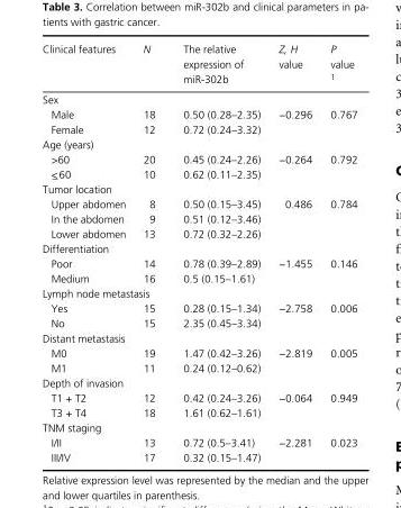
<table><thead><tr><td>Clinical features</td><td>N</td><td>The relative expression of miR- 302b</td><td>Z, H value</td><td>P value 1</td></tr></thead><tbody><tr><td colspan="5">Sex</td></tr><tr><td>Male</td><td>18</td><td>0.50 (0.28–2.35)</td><td rowspan="2">−0.296</td><td rowspan="2">0.767</td></tr><tr><td>Female</td><td>12</td><td>0.72 (0.24–3.32)</td></tr><tr><td colspan="5">Age (years)</td></tr><tr><td>&gt;60</td><td>20</td><td>0.45 (0.24–2.26)</td><td rowspan="2">−0.264</td><td rowspan="2">0.792</td></tr><tr><td>&lt;_60</td><td>10</td><td>0.62 (0.11–2.35)</td></tr><tr><td colspan="5">Tumor location</td></tr><tr><td>Upper abdomen</td><td>8</td><td>0.50 (0.15–3.45)</td><td rowspan="3">0.486</td><td rowspan="3">0.784</td></tr><tr><td>In the abdomen</td><td>9</td><td>0.51 (0.12–3.46)</td></tr><tr><td>Lower abdomen</td><td>13</td><td>0.72 (0.32–2.26)</td></tr><tr><td colspan="5">Differentiation</td></tr><tr><td>Poor</td><td>14</td><td>0.78 (0.39–2.89)</td><td rowspan="2">−1.455</td><td rowspan="2">0.146</td></tr><tr><td>Medium</td><td>16</td><td>0.5 (0.15–1.61)</td></tr><tr><td colspan="5">Lymph node metastasis</td></tr><tr><td>Yes</td><td>15</td><td>0.28 (0.15–1.34)</td><td rowspan="2">−2.758</td><td rowspan="2">0.006</td></tr><tr><td>No</td><td>15</td><td>2.35 (0.45–3.34)</td></tr><tr><td colspan="5">Distant metastasis</td></tr><tr><td>M0</td><td>19</td><td>1.47 (0.42–3.26)</td><td rowspan="2">−2.819</td><td rowspan="2">0.005</td></tr><tr><td>M1</td><td>11</td><td>0.24 (0.12–0.62)</td></tr><tr><td colspan="5">Depth of invasion</td></tr><tr><td>T1 + T2</td><td>12</td><td>0.42 (0.24–3.26)</td><td rowspan="2">−0.064</td><td rowspan="2">0.949</td></tr><tr><td>T3 + T4</td><td>18</td><td>1.61 (0.62–1.61)</td></tr><tr><td colspan="5">TNM staging</td></tr><tr><td>I/II</td><td>13</td><td>0.72 (0.5–3.41)</td><td rowspan="2">−2.281</td><td rowspan="2">0.023</td></tr><tr><td>III/IV</td><td>17</td><td>0.32 (0.15–1.47)</td></tr></tbody></table>